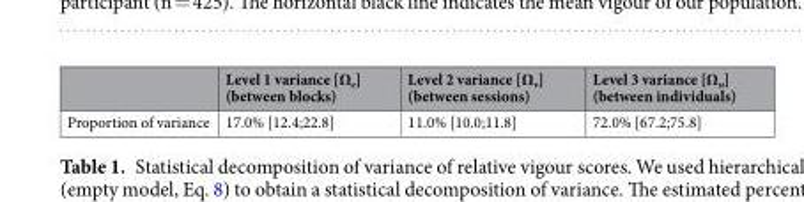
<table><thead><tr><td></td><td>Level 1 variance [Ω<sub>e</sub>] (between blocks)</td><td>Level 2 variance [Ω<sub>v</sub>] (between sessions)</td><td>Level 3 variance [Ω<sub>u</sub>] (between individuals)</td></tr></thead><tbody><tr><td>Proportion of variance</td><td>17.0% [12.4;22.8]</td><td>11.0% [10.0;11.8]</td><td>72.0% [67.2;75.8]</td></tr></tbody></table>